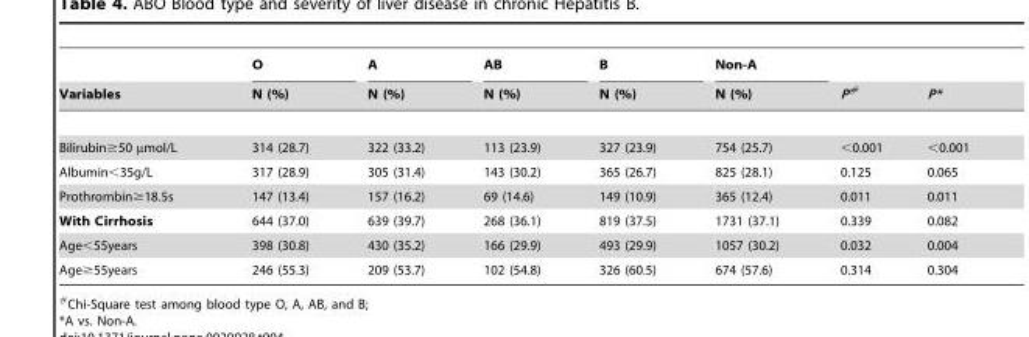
<table><thead><tr><td rowspan="2">Variables</td><td rowspan="2">O N (%)</td><td rowspan="2">A N (%)</td><td rowspan="2">AB N (%)</td><td rowspan="2">B N (%)</td><td rowspan="2">Non-A N (%)</td><td rowspan="2">P#</td><td rowspan="2">P*</td></tr><tr></tr></thead><tbody><tr><td>Bilirubin≥50 µmol/L</td><td>314 (28.7)</td><td>322 (33.2)</td><td>113 (23.9)</td><td>327 (23.9)</td><td>754 (25.7)</td><td>&lt;0.001</td><td>&lt;0.001</td></tr><tr><td>Albumin&lt;35g/L</td><td>317 (28.9)</td><td>305 (31.4)</td><td>143 (30.2)</td><td>365 (26.7)</td><td>825 (28.1)</td><td>0.125</td><td>0.065</td></tr><tr><td>Prothrombin≥18.5s</td><td>147 (13.4)</td><td>157 (16.2)</td><td>69 (14.6)</td><td>149 (10.9)</td><td>365 (12.4)</td><td>0.011</td><td>0.011</td></tr><tr><td>With Cirrhosis</td><td>644 (37.0)</td><td>639 (39.7)</td><td>268 (36.1)</td><td>819 (37.5)</td><td>1731 (37.1)</td><td>0.339</td><td>0.082</td></tr><tr><td>Age&lt;55years</td><td>398 (30.8)</td><td>430 (35.2)</td><td>166 (29.9)</td><td>493 (29.9)</td><td>1057 (30.2)</td><td>0.032</td><td>0.004</td></tr><tr><td>Age≥55years</td><td>246 (55.3)</td><td>209 (53.7)</td><td>102 (54.8)</td><td>326 (60.5)</td><td>674 (57.6)</td><td>0.314</td><td>0.304</td></tr></tbody></table>